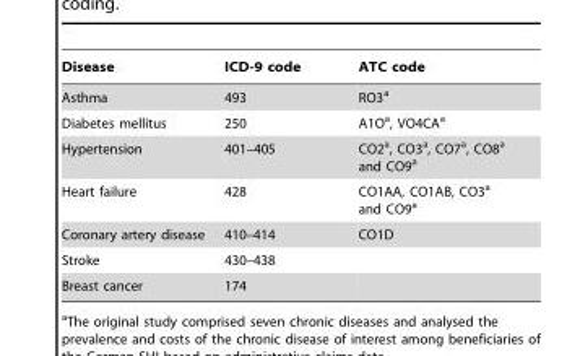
<table><thead><tr><td>Disease</td><td>ICD-9 code</td><td>ATC code</td></tr></thead><tbody><tr><td>Asthma</td><td>493</td><td>RO3<sup>a</sup></td></tr><tr><td>Diabetes mellitus</td><td>250</td><td>A1O<sup>a</sup>, VO4CA<sup>a</sup></td></tr><tr><td>Hypertension</td><td>401–405</td><td>CO2<sup>a</sup>, CO3<sup>a</sup>, CO7<sup>a</sup>, CO8<sup>a</sup> and CO9<sup>a</sup></td></tr><tr><td>Heart failure</td><td>428</td><td>CO1AA, CO1AB, CO3<sup>a</sup> and CO9<sup>a</sup></td></tr><tr><td>Coronary artery disease</td><td>410–414</td><td>CO1D</td></tr><tr><td>Stroke</td><td>430–438</td><td></td></tr><tr><td>Breast cancer</td><td>174</td><td></td></tr></tbody></table>